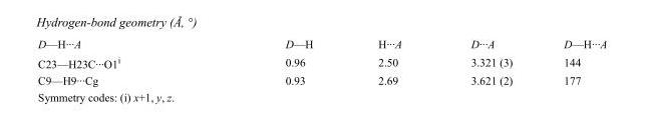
<table><tbody><tr><td>D—H···A</td><td>D—H</td><td>H···A</td><td>D···A</td><td>D—H···A</td></tr><tr><td>C23—H23C···O1<sup>i</sup></td><td>0.96</td><td>2.50</td><td>3.321 (3)</td><td>144</td></tr><tr><td>C9—H9···Cg</td><td>0.93</td><td>2.69</td><td>3.621 (2)</td><td>177</td></tr></tbody></table>